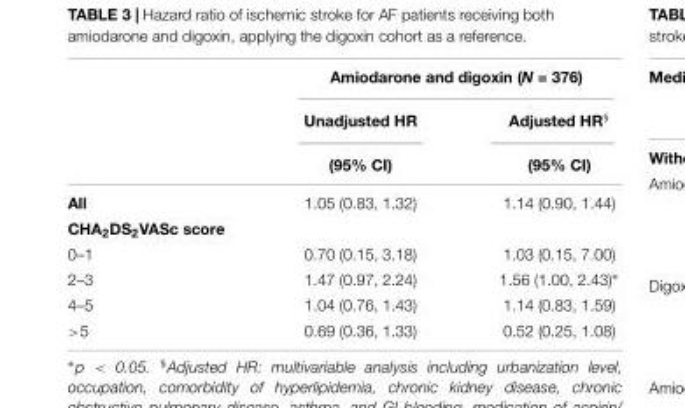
<table><thead><tr><td rowspan="3"></td><td colspan="2">Amiodarone and digoxin (N = 376)</td></tr><tr><td rowspan="2">Unadjusted HR (95% CI)</td><td rowspan="2">Adjusted HR<sup>§</sup> (95% CI)</td></tr><tr></tr></thead><tbody><tr><td>All</td><td>1.05 (0.83, 1.32)</td><td>1.14 (0.90, 1.44)</td></tr><tr><td colspan="3">CHA<sub>2</sub>DS<sub>2</sub>VASc score</td></tr><tr><td>0–1</td><td>0.70 (0.15, 3.18)</td><td>1.03 (0.15, 7.00)</td></tr><tr><td>2–3</td><td>1.47 (0.97, 2.24)</td><td>1.56 (1.00, 2.43)∗</td></tr><tr><td>4–5</td><td>1.04 (0.76, 1.43)</td><td>1.14 (0.83, 1.59)</td></tr><tr><td>&gt;5</td><td>0.69 (0.36, 1.33)</td><td>0.52 (0.25, 1.08)</td></tr></tbody></table>